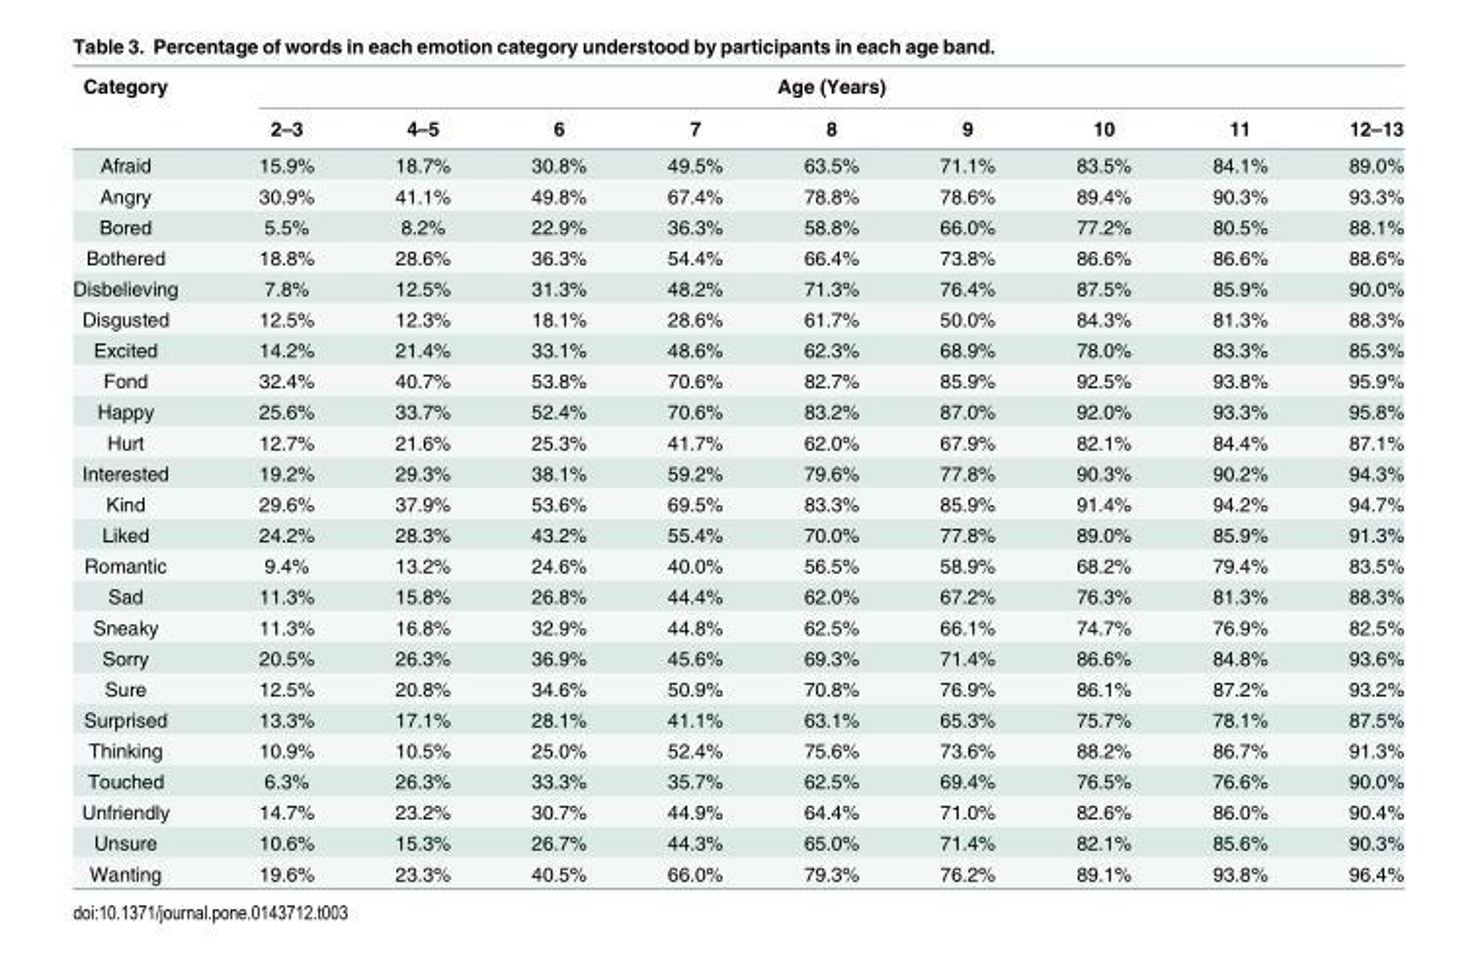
<table><thead><tr><td rowspan="2">Category</td><td colspan="9">Age (Years)</td></tr><tr><td>2–3</td><td>4–5</td><td>6</td><td>7</td><td>8</td><td>9</td><td>10</td><td>11</td><td>12–13</td></tr></thead><tbody><tr><td>Afraid</td><td>15.9%</td><td>18.7%</td><td>30.8%</td><td>49.5%</td><td>63.5%</td><td>71.1%</td><td>83.5%</td><td>84.1%</td><td>89.0%</td></tr><tr><td>Angry</td><td>30.9%</td><td>41.1%</td><td>49.8%</td><td>67.4%</td><td>78.8%</td><td>78.6%</td><td>89.4%</td><td>90.3%</td><td>93.3%</td></tr><tr><td>Bored</td><td>5.5%</td><td>8.2%</td><td>22.9%</td><td>36.3%</td><td>58.8%</td><td>66.0%</td><td>77.2%</td><td>80.5%</td><td>88.1%</td></tr><tr><td>Bothered</td><td>18.8%</td><td>28.6%</td><td>36.3%</td><td>54.4%</td><td>66.4%</td><td>73.8%</td><td>86.6%</td><td>86.6%</td><td>88.6%</td></tr><tr><td>Disbelieving</td><td>7.8%</td><td>12.5%</td><td>31.3%</td><td>48.2%</td><td>71.3%</td><td>76.4%</td><td>87.5%</td><td>85.9%</td><td>90.0%</td></tr><tr><td>Disgusted</td><td>12.5%</td><td>12.3%</td><td>18.1%</td><td>28.6%</td><td>61.7%</td><td>50.0%</td><td>84.3%</td><td>81.3%</td><td>88.3%</td></tr><tr><td>Excited</td><td>14.2%</td><td>21.4%</td><td>33.1%</td><td>48.6%</td><td>62.3%</td><td>68.9%</td><td>78.0%</td><td>83.3%</td><td>85.3%</td></tr><tr><td>Fond</td><td>32.4%</td><td>40.7%</td><td>53.8%</td><td>70.6%</td><td>82.7%</td><td>85.9%</td><td>92.5%</td><td>93.8%</td><td>95.9%</td></tr><tr><td>Happy</td><td>25.6%</td><td>33.7%</td><td>52.4%</td><td>70.6%</td><td>83.2%</td><td>87.0%</td><td>92.0%</td><td>93.3%</td><td>95.8%</td></tr><tr><td>Hurt</td><td>12.7%</td><td>21.6%</td><td>25.3%</td><td>41.7%</td><td>62.0%</td><td>67.9%</td><td>82.1%</td><td>84.4%</td><td>87.1%</td></tr><tr><td>Interested</td><td>19.2%</td><td>29.3%</td><td>38.1%</td><td>59.2%</td><td>79.6%</td><td>77.8%</td><td>90.3%</td><td>90.2%</td><td>94.3%</td></tr><tr><td>Kind</td><td>29.6%</td><td>37.9%</td><td>53.6%</td><td>69.5%</td><td>83.3%</td><td>85.9%</td><td>91.4%</td><td>94.2%</td><td>94.7%</td></tr><tr><td>Liked</td><td>24.2%</td><td>28.3%</td><td>43.2%</td><td>55.4%</td><td>70.0%</td><td>77.8%</td><td>89.0%</td><td>85.9%</td><td>91.3%</td></tr><tr><td>Romantic</td><td>9.4%</td><td>13.2%</td><td>24.6%</td><td>40.0%</td><td>56.5%</td><td>58.9%</td><td>68.2%</td><td>79.4%</td><td>83.5%</td></tr><tr><td>Sad</td><td>11.3%</td><td>15.8%</td><td>26.8%</td><td>44.4%</td><td>62.0%</td><td>67.2%</td><td>76.3%</td><td>81.3%</td><td>88.3%</td></tr><tr><td>Sneaky</td><td>11.3%</td><td>16.8%</td><td>32.9%</td><td>44.8%</td><td>62.5%</td><td>66.1%</td><td>74.7%</td><td>76.9%</td><td>82.5%</td></tr><tr><td>Sorry</td><td>20.5%</td><td>26.3%</td><td>36.9%</td><td>45.6%</td><td>69.3%</td><td>71.4%</td><td>86.6%</td><td>84.8%</td><td>93.6%</td></tr><tr><td>Sure</td><td>12.5%</td><td>20.8%</td><td>34.6%</td><td>50.9%</td><td>70.8%</td><td>76.9%</td><td>86.1%</td><td>87.2%</td><td>93.2%</td></tr><tr><td>Surprised</td><td>13.3%</td><td>17.1%</td><td>28.1%</td><td>41.1%</td><td>63.1%</td><td>65.3%</td><td>75.7%</td><td>78.1%</td><td>87.5%</td></tr><tr><td>Thinking</td><td>10.9%</td><td>10.5%</td><td>25.0%</td><td>52.4%</td><td>75.6%</td><td>73.6%</td><td>88.2%</td><td>86.7%</td><td>91.3%</td></tr><tr><td>Touched</td><td>6.3%</td><td>26.3%</td><td>33.3%</td><td>35.7%</td><td>62.5%</td><td>69.4%</td><td>76.5%</td><td>76.6%</td><td>90.0%</td></tr><tr><td>Unfriendly</td><td>14.7%</td><td>23.2%</td><td>30.7%</td><td>44.9%</td><td>64.4%</td><td>71.0%</td><td>82.6%</td><td>86.0%</td><td>90.4%</td></tr><tr><td>Unsure</td><td>10.6%</td><td>15.3%</td><td>26.7%</td><td>44.3%</td><td>65.0%</td><td>71.4%</td><td>82.1%</td><td>85.6%</td><td>90.3%</td></tr><tr><td>Wanting</td><td>19.6%</td><td>23.3%</td><td>40.5%</td><td>66.0%</td><td>79.3%</td><td>76.2%</td><td>89.1%</td><td>93.8%</td><td>96.4%</td></tr></tbody></table>